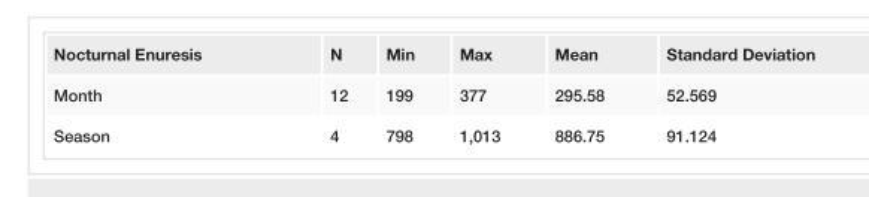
<table><tbody><tr><td>Nocturnal Enuresis</td><td>N</td><td>Min</td><td>Max</td><td>Mean</td><td>Standard Deviation</td></tr><tr><td>Month</td><td>12</td><td>199</td><td>377</td><td>295.58</td><td>52.569</td></tr><tr><td>Season</td><td>4</td><td>798</td><td>1,013</td><td>886.75</td><td>91.124</td></tr></tbody></table>